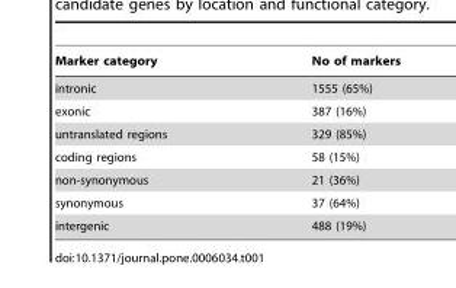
<table><thead><tr><td>Marker category</td><td>No of markers</td></tr></thead><tbody><tr><td>intronic</td><td>1555 (65%)</td></tr><tr><td>exonic</td><td>387 (16%)</td></tr><tr><td>untranslated regions</td><td>329 (85%)</td></tr><tr><td>coding regions</td><td>58 (15%)</td></tr><tr><td>non-synonymous</td><td>21 (36%)</td></tr><tr><td>synonymous</td><td>37 (64%)</td></tr><tr><td>intergenic</td><td>488 (19%)</td></tr></tbody></table>